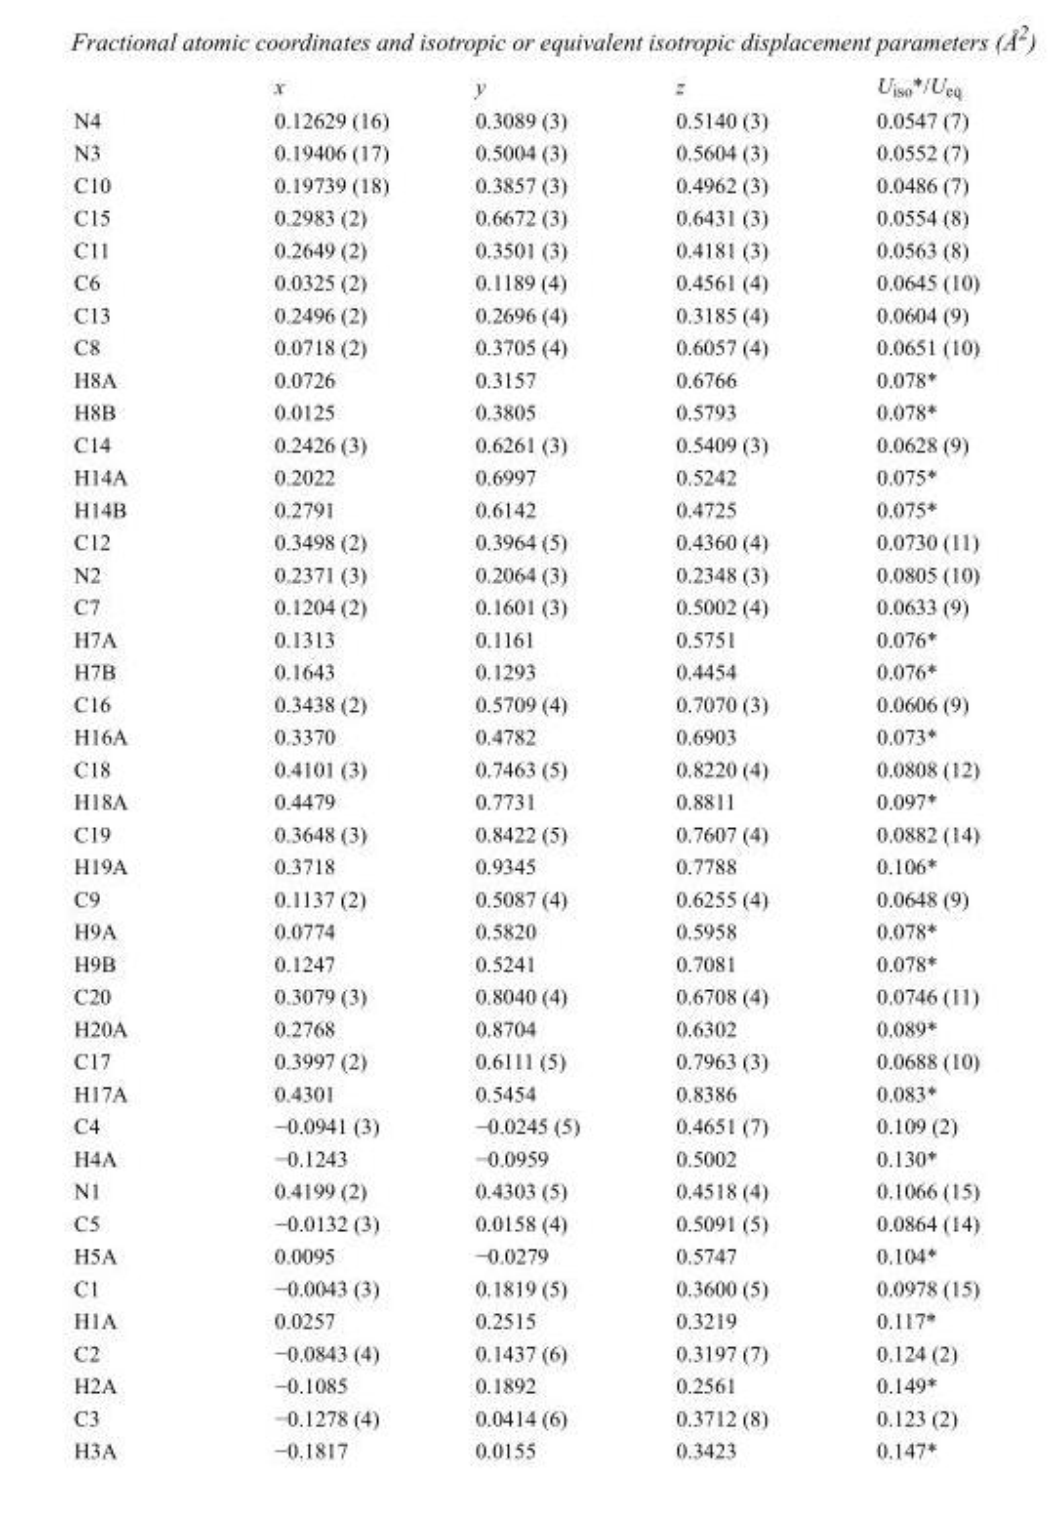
<table><thead><tr><td></td><td>x</td><td>y</td><td>z</td><td>U<sub>iso</sub>*/U<sub>eq</sub></td></tr></thead><tbody><tr><td>N4</td><td>0.12629 (16)</td><td>0.3089 (3)</td><td>0.5140 (3)</td><td>0.0547 (7)</td></tr><tr><td>N3</td><td>0.19406 (17)</td><td>0.5004 (3)</td><td>0.5604 (3)</td><td>0.0552 (7)</td></tr><tr><td>C10</td><td>0.19739 (18)</td><td>0.3857 (3)</td><td>0.4962 (3)</td><td>0.0486 (7)</td></tr><tr><td>C15</td><td>0.2983 (2)</td><td>0.6672 (3)</td><td>0.6431 (3)</td><td>0.0554 (8)</td></tr><tr><td>C11</td><td>0.2649 (2)</td><td>0.3501 (3)</td><td>0.4181 (3)</td><td>0.0563 (8)</td></tr><tr><td>C6</td><td>0.0325 (2)</td><td>0.1189 (4)</td><td>0.4561 (4)</td><td>0.0645 (10)</td></tr><tr><td>C13</td><td>0.2496 (2)</td><td>0.2696 (4)</td><td>0.3185 (4)</td><td>0.0604 (9)</td></tr><tr><td>C8</td><td>0.0718 (2)</td><td>0.3705 (4)</td><td>0.6057 (4)</td><td>0.0651 (10)</td></tr><tr><td>H8A</td><td>0.0726</td><td>0.3157</td><td>0.6766</td><td>0.078*</td></tr><tr><td>H8B</td><td>0.0125</td><td>0.3805</td><td>0.5793</td><td>0.078*</td></tr><tr><td>C14</td><td>0.2426 (3)</td><td>0.6261 (3)</td><td>0.5409 (3)</td><td>0.0628 (9)</td></tr><tr><td>H14A</td><td>0.2022</td><td>0.6997</td><td>0.5242</td><td>0.075*</td></tr><tr><td>H14B</td><td>0.2791</td><td>0.6142</td><td>0.4725</td><td>0.075*</td></tr><tr><td>C12</td><td>0.3498 (2)</td><td>0.3964 (5)</td><td>0.4360 (4)</td><td>0.0730 (11)</td></tr><tr><td>N2</td><td>0.2371 (3)</td><td>0.2064 (3)</td><td>0.2348 (3)</td><td>0.0805 (10)</td></tr><tr><td>C7</td><td>0.1204 (2)</td><td>0.1601 (3)</td><td>0.5002 (4)</td><td>0.0633 (9)</td></tr><tr><td>H7A</td><td>0.1313</td><td>0.1161</td><td>0.5751</td><td>0.076*</td></tr><tr><td>H7B</td><td>0.1643</td><td>0.1293</td><td>0.4454</td><td>0.076*</td></tr><tr><td>C16</td><td>0.3438 (2)</td><td>0.5709 (4)</td><td>0.7070 (3)</td><td>0.0606 (9)</td></tr><tr><td>H16A</td><td>0.3370</td><td>0.4782</td><td>0.6903</td><td>0.073*</td></tr><tr><td>C18</td><td>0.4101 (3)</td><td>0.7463 (5)</td><td>0.8220 (4)</td><td>0.0808 (12)</td></tr><tr><td>H18A</td><td>0.4479</td><td>0.7731</td><td>0.8811</td><td>0.097*</td></tr><tr><td>C19</td><td>0.3648 (3)</td><td>0.8422 (5)</td><td>0.7607 (4)</td><td>0.0882 (14)</td></tr><tr><td>H19A</td><td>0.3718</td><td>0.9345</td><td>0.7788</td><td>0.106*</td></tr><tr><td>C9</td><td>0.1137 (2)</td><td>0.5087 (4)</td><td>0.6255 (4)</td><td>0.0648 (9)</td></tr><tr><td>H9A</td><td>0.0774</td><td>0.5820</td><td>0.5958</td><td>0.078*</td></tr><tr><td>H9B</td><td>0.1247</td><td>0.5241</td><td>0.7081</td><td>0.078*</td></tr><tr><td>C20</td><td>0.3079 (3)</td><td>0.8040 (4)</td><td>0.6708 (4)</td><td>0.0746 (11)</td></tr><tr><td>H20A</td><td>0.2768</td><td>0.8704</td><td>0.6302</td><td>0.089*</td></tr><tr><td>C17</td><td>0.3997 (2)</td><td>0.6111 (5)</td><td>0.7963 (3)</td><td>0.0688 (10)</td></tr><tr><td>H17A</td><td>0.4301</td><td>0.5454</td><td>0.8386</td><td>0.083*</td></tr><tr><td>C4</td><td>−0.0941 (3)</td><td>−0.0245 (5)</td><td>0.4651 (7)</td><td>0.109 (2)</td></tr><tr><td>H4A</td><td>−0.1243</td><td>−0.0959</td><td>0.5002</td><td>0.130*</td></tr><tr><td>N1</td><td>0.4199 (2)</td><td>0.4303 (5)</td><td>0.4518 (4)</td><td>0.1066 (15)</td></tr><tr><td>C5</td><td>−0.0132 (3)</td><td>0.0158 (4)</td><td>0.5091 (5)</td><td>0.0864 (14)</td></tr><tr><td>H5A</td><td>0.0095</td><td>−0.0279</td><td>0.5747</td><td>0.104*</td></tr><tr><td>C1</td><td>−0.0043 (3)</td><td>0.1819 (5)</td><td>0.3600 (5)</td><td>0.0978 (15)</td></tr><tr><td>H1A</td><td>0.0257</td><td>0.2515</td><td>0.3219</td><td>0.117*</td></tr><tr><td>C2</td><td>−0.0843 (4)</td><td>0.1437 (6)</td><td>0.3197 (7)</td><td>0.124 (2)</td></tr><tr><td>H2A</td><td>−0.1085</td><td>0.1892</td><td>0.2561</td><td>0.149*</td></tr><tr><td>C3</td><td>−0.1278 (4)</td><td>0.0414 (6)</td><td>0.3712 (8)</td><td>0.123 (2)</td></tr><tr><td>H3A</td><td>−0.1817</td><td>0.0155</td><td>0.3423</td><td>0.147*</td></tr></tbody></table>